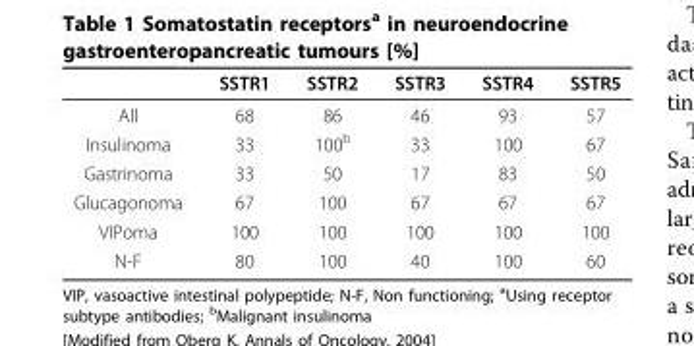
<table><thead><tr><td></td><td>SSTR1</td><td>SSTR2</td><td>SSTR3</td><td>SSTR4</td><td>SSTR5</td></tr></thead><tbody><tr><td>All</td><td>68</td><td>86</td><td>46</td><td>93</td><td>57</td></tr><tr><td>Insulinoma</td><td>33</td><td>100<sup>b</sup></td><td>33</td><td>100</td><td>67</td></tr><tr><td>Gastrinoma</td><td>33</td><td>50</td><td>17</td><td>83</td><td>50</td></tr><tr><td>Glucagonoma</td><td>67</td><td>100</td><td>67</td><td>67</td><td>67</td></tr><tr><td>VIPoma</td><td>100</td><td>100</td><td>100</td><td>100</td><td>100</td></tr><tr><td>N-F</td><td>80</td><td>100</td><td>40</td><td>100</td><td>60</td></tr></tbody></table>